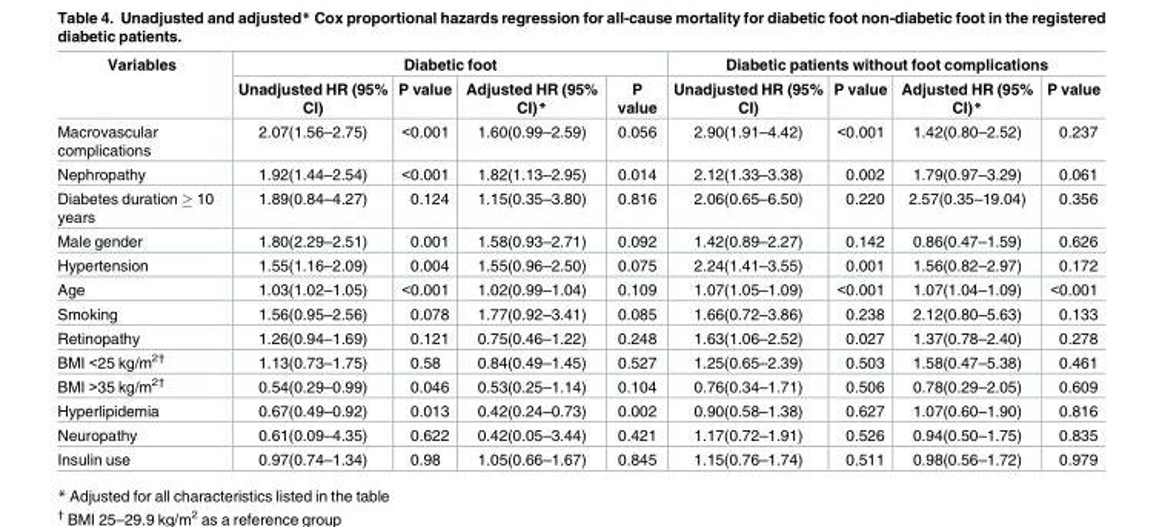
<table><thead><tr><td rowspan="2">Variables</td><td colspan="4">Diabetic foot</td><td colspan="4">Diabetic patients without foot complications</td></tr><tr><td>Unadjusted HR (95% CI)</td><td>P value</td><td>Adjusted HR (95% CI)*</td><td>P value</td><td>Unadjusted HR (95% CI)</td><td>P value</td><td>Adjusted HR (95% CI)*</td><td>P value</td></tr></thead><tbody><tr><td>Macrovascular complications</td><td>2.07(1.56–2.75)</td><td>&lt;0.001</td><td>1.60(0.99–2.59)</td><td>0.056</td><td>2.90(1.91–4.42)</td><td>&lt;0.001</td><td>1.42(0.80–2.52)</td><td>0.237</td></tr><tr><td>Nephropathy</td><td>1.92(1.44–2.54)</td><td>&lt;0.001</td><td>1.82(1.13–2.95)</td><td>0.014</td><td>2.12(1.33–3.38)</td><td>0.002</td><td>1.79(0.97–3.29)</td><td>0.061</td></tr><tr><td>Diabetes duration ≥ 10 years</td><td>1.89(0.84–4.27)</td><td>0.124</td><td>1.15(0.35–3.80)</td><td>0.816</td><td>2.06(0.65–6.50)</td><td>0.220</td><td>2.57(0.35–19.04)</td><td>0.356</td></tr><tr><td>Male gender</td><td>1.80(2.29–2.51)</td><td>0.001</td><td>1.58(0.93–2.71)</td><td>0.092</td><td>1.42(0.89–2.27)</td><td>0.142</td><td>0.86(0.47–1.59)</td><td>0.626</td></tr><tr><td>Hypertension</td><td>1.55(1.16–2.09)</td><td>0.004</td><td>1.55(0.96–2.50)</td><td>0.075</td><td>2.24(1.41–3.55)</td><td>0.001</td><td>1.56(0.82–2.97)</td><td>0.172</td></tr><tr><td>Age</td><td>1.03(1.02–1.05)</td><td>&lt;0.001</td><td>1.02(0.99–1.04)</td><td>0.109</td><td>1.07(1.05–1.09)</td><td>&lt;0.001</td><td>1.07(1.04–1.09)</td><td>&lt;0.001</td></tr><tr><td>Smoking</td><td>1.56(0.95–2.56)</td><td>0.078</td><td>1.77(0.92–3.41)</td><td>0.085</td><td>1.66(0.72–3.86)</td><td>0.238</td><td>2.12(0.80–5.63)</td><td>0.133</td></tr><tr><td>Retinopathy</td><td>1.26(0.94–1.69)</td><td>0.121</td><td>0.75(0.46–1.22)</td><td>0.248</td><td>1.63(1.06–2.52)</td><td>0.027</td><td>1.37(0.78–2.40)</td><td>0.278</td></tr><tr><td>BMI &lt;25 kg/m<sup>2†</sup></td><td>1.13(0.73–1.75)</td><td>0.58</td><td>0.84(0.49–1.45)</td><td>0.527</td><td>1.25(0.65–2.39)</td><td>0.503</td><td>1.58(0.47–5.38)</td><td>0.461</td></tr><tr><td>BMI &gt;35 kg/m<sup>2†</sup></td><td>0.54(0.29–0.99)</td><td>0.046</td><td>0.53(0.25–1.14)</td><td>0.104</td><td>0.76(0.34–1.71)</td><td>0.506</td><td>0.78(0.29–2.05)</td><td>0.609</td></tr><tr><td>Hyperlipidemia</td><td>0.67(0.49–0.92)</td><td>0.013</td><td>0.42(0.24–0.73)</td><td>0.002</td><td>0.90(0.58–1.38)</td><td>0.627</td><td>1.07(0.60–1.90)</td><td>0.816</td></tr><tr><td>Neuropathy</td><td>0.61(0.09–4.35)</td><td>0.622</td><td>0.42(0.05–3.44)</td><td>0.421</td><td>1.17(0.72–1.91)</td><td>0.526</td><td>0.94(0.50–1.75)</td><td>0.835</td></tr><tr><td>Insulin use</td><td>0.97(0.74–1.34)</td><td>0.98</td><td>1.05(0.66–1.67)</td><td>0.845</td><td>1.15(0.76–1.74)</td><td>0.511</td><td>0.98(0.56–1.72)</td><td>0.979</td></tr></tbody></table>